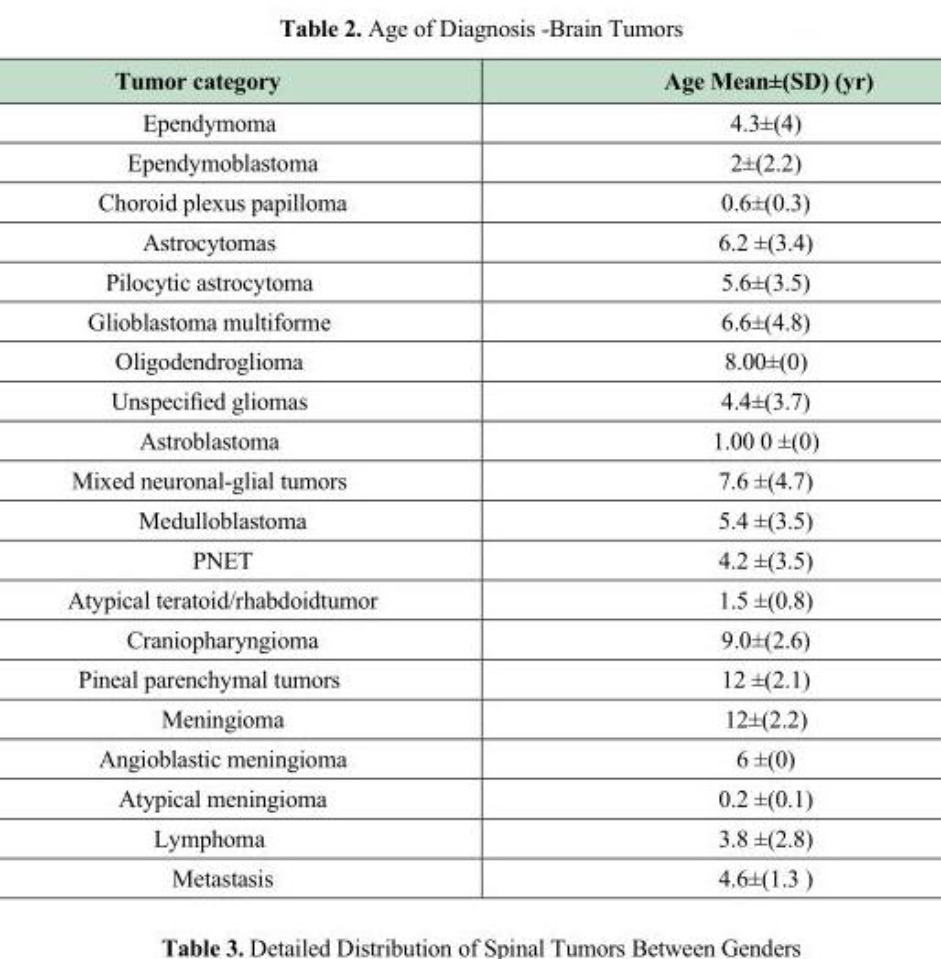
<table><thead><tr><td>Tumor category</td><td>Age Mean±(SD) (yr)</td></tr></thead><tbody><tr><td>Ependymoma</td><td>4.3±(4)</td></tr><tr><td>Ependymoblastoma</td><td>2±(2.2)</td></tr><tr><td>Choroid plexus papilloma</td><td>0.6±(0.3)</td></tr><tr><td>Astrocytomas</td><td>6.2 ±(3.4)</td></tr><tr><td>Pilocytic astrocytoma</td><td>5.6±(3.5)</td></tr><tr><td>Glioblastoma multiforme</td><td>6.6±(4.8)</td></tr><tr><td>Oligodendroglioma</td><td>8.00±(0)</td></tr><tr><td>Unspecified gliomas</td><td>4.4±(3.7)</td></tr><tr><td>Astroblastoma</td><td>1.00 0 ±(0)</td></tr><tr><td>Mixed neuronal-glial tumors</td><td>7.6 ±(4.7)</td></tr><tr><td>Medulloblastoma</td><td>5.4 ±(3.5)</td></tr><tr><td>PNET</td><td>4.2 ±(3.5)</td></tr><tr><td>Atypical teratoid/rhabdoidtumor</td><td>1.5 ±(0.8)</td></tr><tr><td>Craniopharyngioma</td><td>9.0±(2.6)</td></tr><tr><td>Pineal parenchymal tumors</td><td>12 ±(2.1)</td></tr><tr><td>Meningioma</td><td>12±(2.2)</td></tr><tr><td>Angioblastic meningioma</td><td>6 ±(0)</td></tr><tr><td>Atypical meningioma</td><td>0.2 ±(0.1)</td></tr><tr><td>Lymphoma</td><td>3.8 ±(2.8)</td></tr><tr><td>Metastasis</td><td>4.6±(1.3 )</td></tr></tbody></table>